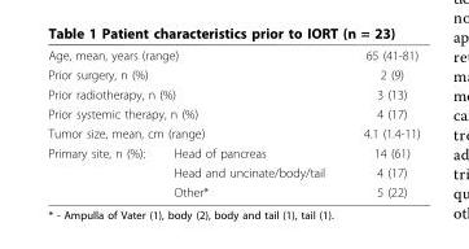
<table><tbody><tr><td colspan="2">Age, mean, years (range)</td><td>65 (41-81)</td></tr><tr><td colspan="2">Prior surgery, n (%)</td><td>2 (9)</td></tr><tr><td colspan="2">Prior radiotherapy, n (%)</td><td>3 (13)</td></tr><tr><td colspan="2">Prior systemic therapy, n (%)</td><td>4 (17)</td></tr><tr><td colspan="2">Tumor size, mean, cm (range)</td><td>4.1 (1.4-11)</td></tr><tr><td rowspan="3">Primary site, n (%):</td><td>Head of pancreas</td><td>14 (61)</td></tr><tr><td>Head and uncinate/body/tail</td><td>4 (17)</td></tr><tr><td>Other*</td><td>5 (22)</td></tr></tbody></table>